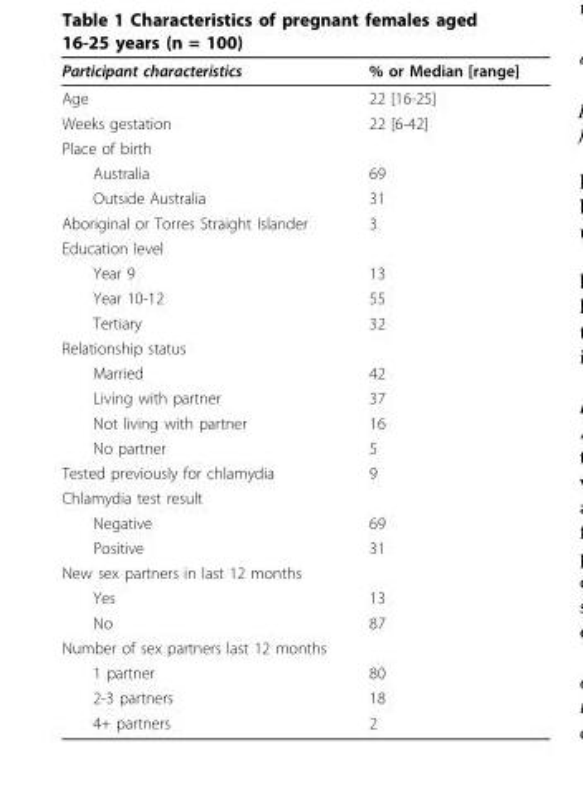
<table><thead><tr><td>Participant characteristics</td><td>% or Median [range]</td></tr></thead><tbody><tr><td>Age</td><td>22 [16-25]</td></tr><tr><td>Weeks gestation</td><td>22 [6-42]</td></tr><tr><td colspan="2">Place of birth</td></tr><tr><td>Australia</td><td>69</td></tr><tr><td>Outside Australia</td><td>31</td></tr><tr><td>Aboriginal or Torres Straight Islander</td><td>3</td></tr><tr><td colspan="2">Education level</td></tr><tr><td>Year 9</td><td>13</td></tr><tr><td>Year 10-12</td><td>55</td></tr><tr><td>Tertiary</td><td>32</td></tr><tr><td colspan="2">Relationship status</td></tr><tr><td>Married</td><td>42</td></tr><tr><td>Living with partner</td><td>37</td></tr><tr><td>Not living with partner</td><td>16</td></tr><tr><td>No partner</td><td>5</td></tr><tr><td>Tested previously for chlamydia</td><td>9</td></tr><tr><td colspan="2">Chlamydia test result</td></tr><tr><td>Negative</td><td>69</td></tr><tr><td>Positive</td><td>31</td></tr><tr><td colspan="2">New sex partners in last 12 months</td></tr><tr><td>Yes</td><td>13</td></tr><tr><td>No</td><td>87</td></tr><tr><td colspan="2">Number of sex partners last 12 months</td></tr><tr><td>1 partner</td><td>80</td></tr><tr><td>2-3 partners</td><td>18</td></tr><tr><td>4+ partners</td><td>2</td></tr></tbody></table>